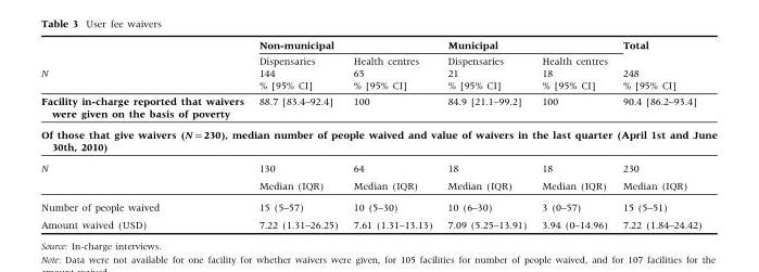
<table><thead><tr><td rowspan="4">N</td><td colspan="2">Non-municipal</td><td colspan="2">Municipal</td><td rowspan="4">Total 248 % [95% CI]</td></tr><tr><td rowspan="3">Dispensaries 144 % [95% CI]</td><td rowspan="3">Health centres 65 % [95% CI]</td><td rowspan="3">Dispensaries 21 % [95% CI]</td><td rowspan="3">Health centres 18 % [95% CI]</td></tr><tr></tr><tr></tr></thead><tbody><tr><td>Facility in-charge reported that waivers were given on the basis of poverty</td><td>88.7 [83.4–92.4]</td><td>100</td><td>84.9 [21.1–99.2]</td><td>100</td><td>90.4 [86.2–93.4]</td></tr><tr><td colspan="6">Of those that give waivers (N = 230), median number of people waived and value of waivers in the last quarter (April 1st and June 30th, 2010)</td></tr><tr><td rowspan="2">N</td><td>130</td><td>64</td><td>18</td><td>18</td><td>230</td></tr><tr><td>Median (IQR)</td><td>Median (IQR)</td><td>Median (IQR)</td><td>Median (IQR)</td><td>Median (IQR)</td></tr><tr><td>Number of people waived</td><td>15 (5–57)</td><td>10 (5–30)</td><td>10 (6–30)</td><td>3 (0–57)</td><td>15 (5–51)</td></tr><tr><td>Amount waived (USD)</td><td>7.22 (1.31–26.25)</td><td>7.61 (1.31–13.13)</td><td>7.09 (5.25–13.91)</td><td>3.94 (0–14.96)</td><td>7.22 (1.84–24.42)</td></tr></tbody></table>